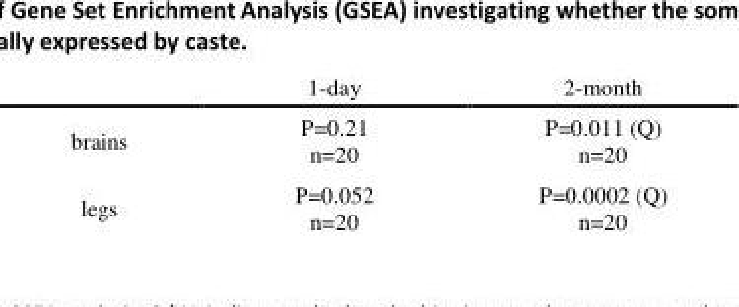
<table><thead><tr><td></td><td>1-day</td><td>2-month</td></tr></thead><tbody><tr><td>brains</td><td>P=0.21 n=20</td><td>P=0.011 (Q) n=20</td></tr><tr><td>legs</td><td>P=0.052 n=20</td><td>P=0.0002 (Q) n=20</td></tr></tbody></table>